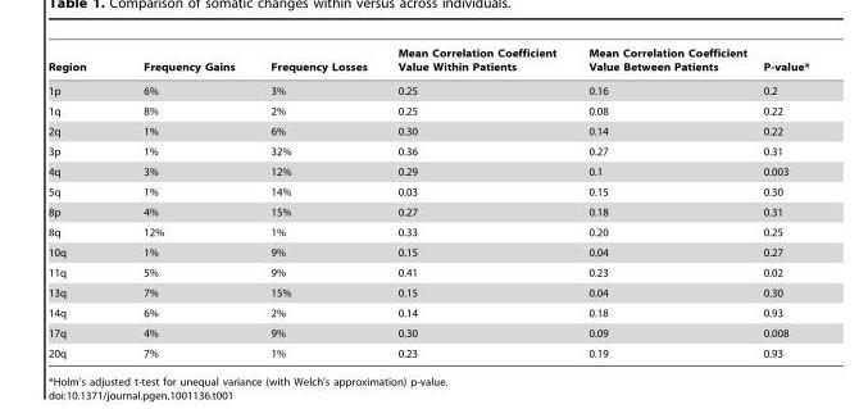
<table><thead><tr><td>Region</td><td>Frequency Gains</td><td>Frequency Losses</td><td>Mean Correlation Coefficient Value Within Patients</td><td>Mean Correlation Coefficient Value Between Patients</td><td>P-value*</td></tr></thead><tbody><tr><td>1p</td><td>6%</td><td>3%</td><td>0.25</td><td>0.16</td><td>0.2</td></tr><tr><td>1q</td><td>8%</td><td>2%</td><td>0.25</td><td>0.08</td><td>0.22</td></tr><tr><td>2q</td><td>1%</td><td>6%</td><td>0.30</td><td>0.14</td><td>0.22</td></tr><tr><td>3p</td><td>1%</td><td>32%</td><td>0.36</td><td>0.27</td><td>0.31</td></tr><tr><td>4q</td><td>3%</td><td>12%</td><td>0.29</td><td>0.1</td><td>0.003</td></tr><tr><td>5q</td><td>1%</td><td>14%</td><td>0.03</td><td>0.15</td><td>0.30</td></tr><tr><td>8p</td><td>4%</td><td>15%</td><td>0.27</td><td>0.18</td><td>0.31</td></tr><tr><td>8q</td><td>12%</td><td>1%</td><td>0.33</td><td>0.20</td><td>0.25</td></tr><tr><td>10q</td><td>1%</td><td>9%</td><td>0.15</td><td>0.04</td><td>0.27</td></tr><tr><td>11q</td><td>5%</td><td>9%</td><td>0.41</td><td>0.23</td><td>0.02</td></tr><tr><td>13q</td><td>7%</td><td>15%</td><td>0.15</td><td>0.04</td><td>0.30</td></tr><tr><td>14q</td><td>6%</td><td>2%</td><td>0.14</td><td>0.18</td><td>0.93</td></tr><tr><td>17q</td><td>4%</td><td>9%</td><td>0.30</td><td>0.09</td><td>0.008</td></tr><tr><td>20q</td><td>7%</td><td>1%</td><td>0.23</td><td>0.19</td><td>0.93</td></tr></tbody></table>